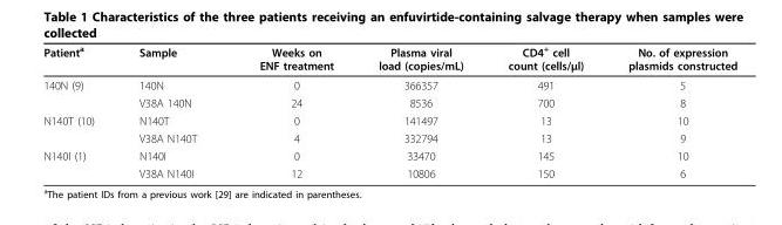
<table><thead><tr><td>Patient<sup>a</sup></td><td>Sample</td><td>Weeks on ENF treatment</td><td>Plasma viral load (copies/mL)</td><td>CD4<sup>+</sup> cell count (cells/μl)</td><td>No. of expression plasmids constructed</td></tr></thead><tbody><tr><td rowspan="2">140N (9)</td><td>140N</td><td>0</td><td>366357</td><td>491</td><td>5</td></tr><tr><td>V38A 140N</td><td>24</td><td>8536</td><td>700</td><td>8</td></tr><tr><td rowspan="2">N140T (10)</td><td>N140T</td><td>0</td><td>141497</td><td>13</td><td>10</td></tr><tr><td>V38A N140T</td><td>4</td><td>332794</td><td>13</td><td>9</td></tr><tr><td rowspan="2">N140I (1)</td><td>N140I</td><td>0</td><td>33470</td><td>145</td><td>10</td></tr><tr><td>V38A N140I</td><td>12</td><td>10806</td><td>150</td><td>6</td></tr></tbody></table>